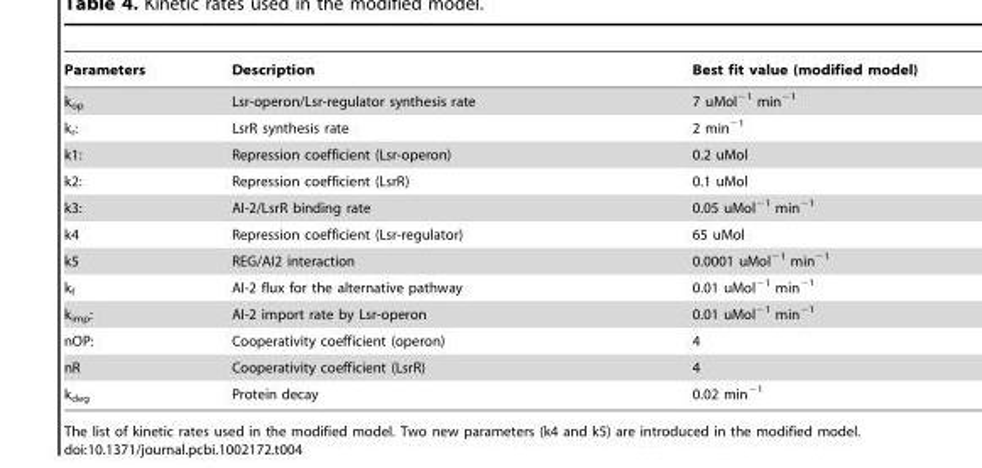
<table><thead><tr><td>Parameters</td><td>Description</td><td>Best fit value (modified model)</td></tr></thead><tbody><tr><td>k<sub>op</sub></td><td>Lsr-operon/Lsr-regulator synthesis rate</td><td>7 uMol<sup>−1</sup> min<sup>−1</sup></td></tr><tr><td>k<sub>r</sub>:</td><td>LsrR synthesis rate</td><td>2 min<sup>−1</sup></td></tr><tr><td>k1:</td><td>Repression coefficient (Lsr-operon)</td><td>0.2 uMol</td></tr><tr><td>k2:</td><td>Repression coefficient (LsrR)</td><td>0.1 uMol</td></tr><tr><td>k3:</td><td>AI-2/LsrR binding rate</td><td>0.05 uMol<sup>−1</sup> min<sup>−1</sup></td></tr><tr><td>k4</td><td>Repression coefficient (Lsr-regulator)</td><td>65 uMol</td></tr><tr><td>k5</td><td>REG/AI2 interaction</td><td>0.0001 uMol<sup>−1</sup> min<sup>−1</sup></td></tr><tr><td>k<sub>f</sub></td><td>AI-2 flux for the alternative pathway</td><td>0.01 uMol<sup>−1</sup> min<sup>−1</sup></td></tr><tr><td>k<sub>imp</sub>:</td><td>AI-2 import rate by Lsr-operon</td><td>0.01 uMol<sup>−1</sup> min<sup>−1</sup></td></tr><tr><td>nOP:</td><td>Cooperativity coefficient (operon)</td><td>4</td></tr><tr><td>nR</td><td>Cooperativity coefficient (LsrR)</td><td>4</td></tr><tr><td>k<sub>deg</sub></td><td>Protein decay</td><td>0.02 min<sup>−1</sup></td></tr></tbody></table>